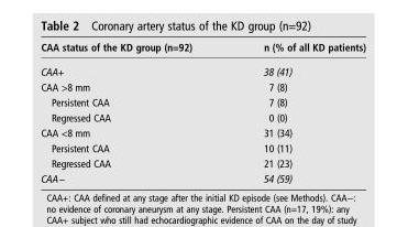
<table><thead><tr><td>CAA status of the KD group (n=92)</td><td>n (% of all KD patients)</td></tr></thead><tbody><tr><td>CAA+</td><td>38 (41)</td></tr><tr><td>CAA &gt;8 mm</td><td>7 (8)</td></tr><tr><td>Persistent CAA</td><td>7 (8)</td></tr><tr><td>Regressed CAA</td><td>0 (0)</td></tr><tr><td>CAA &lt;8 mm</td><td>31 (34)</td></tr><tr><td>Persistent CAA</td><td>10 (11)</td></tr><tr><td>Regressed CAA</td><td>21 (23)</td></tr><tr><td>CAA−</td><td>54 (59)</td></tr></tbody></table>